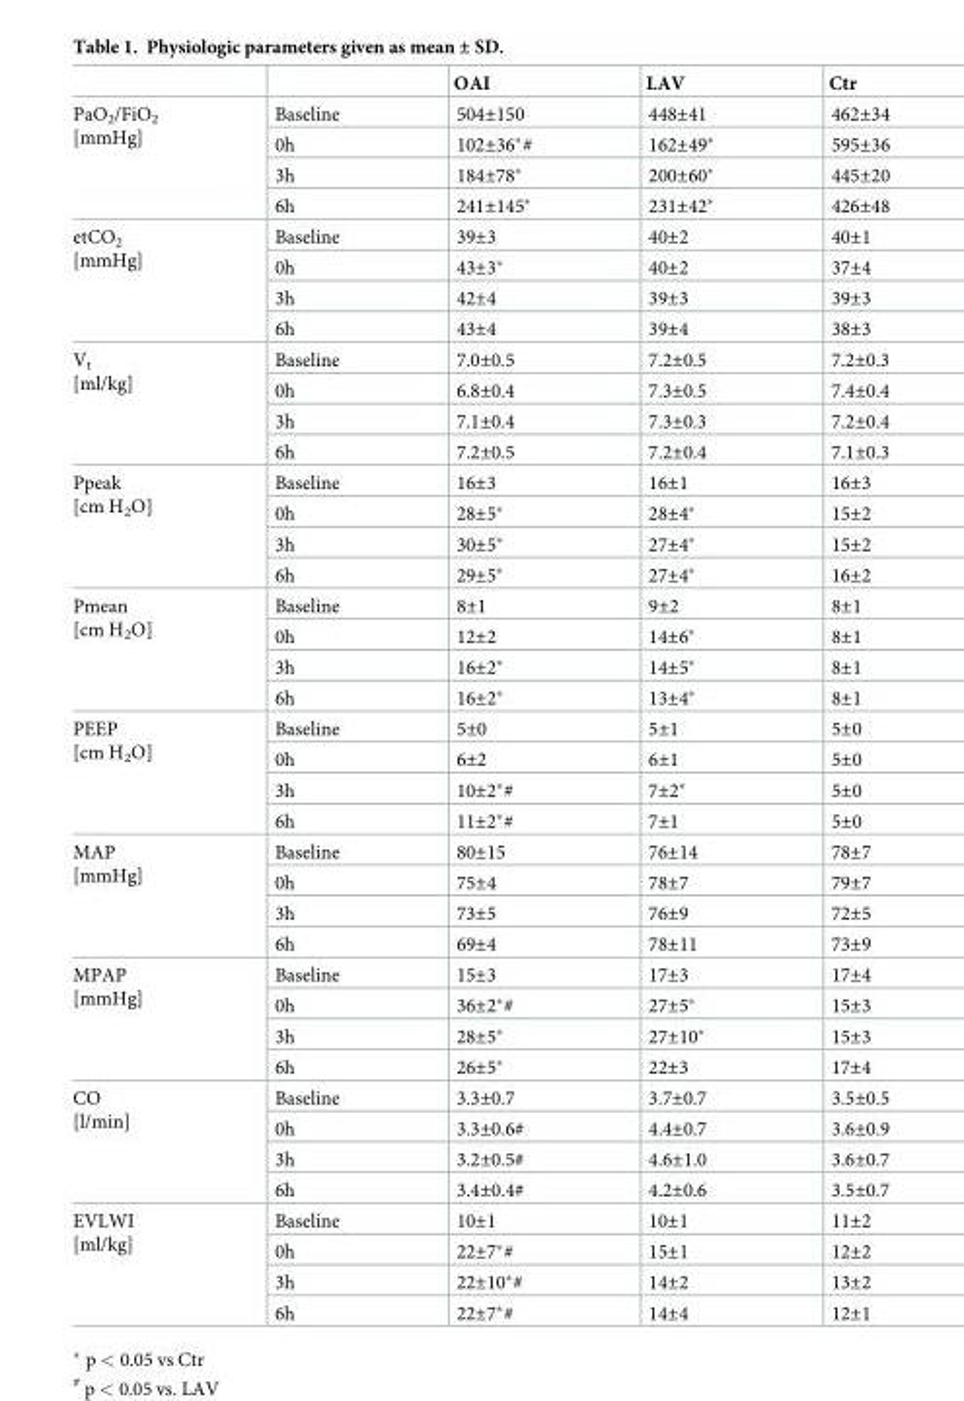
<table><thead><tr><td></td><td></td><td>OAI</td><td>LAV</td><td>Ctr</td></tr></thead><tbody><tr><td rowspan="4">PaO<sub>2</sub>/FiO<sub>2</sub> [mmHg]</td><td>Baseline</td><td>504±150</td><td>448±41</td><td>462±34</td></tr><tr><td>0h</td><td>102±36*#</td><td>162±49*</td><td>595±36</td></tr><tr><td>3h</td><td>184±78*</td><td>200±60*</td><td>445±20</td></tr><tr><td>6h</td><td>241±145*</td><td>231±42*</td><td>426±48</td></tr><tr><td rowspan="4">etCO<sub>2</sub> [mmHg]</td><td>Baseline</td><td>39±3</td><td>40±2</td><td>40±1</td></tr><tr><td>0h</td><td>43±3*</td><td>40±2</td><td>37±4</td></tr><tr><td>3h</td><td>42±4</td><td>39±3</td><td>39±3</td></tr><tr><td>6h</td><td>43±4</td><td>39±4</td><td>38±3</td></tr><tr><td rowspan="4">V<sub>t</sub> [ml/kg]</td><td>Baseline</td><td>7.0±0.5</td><td>7.2±0.5</td><td>7.2±0.3</td></tr><tr><td>0h</td><td>6.8±0.4</td><td>7.3±0.5</td><td>7.4±0.4</td></tr><tr><td>3h</td><td>7.1±0.4</td><td>7.3±0.3</td><td>7.2±0.4</td></tr><tr><td>6h</td><td>7.2±0.5</td><td>7.2±0.4</td><td>7.1±0.3</td></tr><tr><td rowspan="4">Ppeak [cm H<sub>2</sub>O]</td><td>Baseline</td><td>16±3</td><td>16±1</td><td>16±3</td></tr><tr><td>0h</td><td>28±5*</td><td>28±4*</td><td>15±2</td></tr><tr><td>3h</td><td>30±5*</td><td>27±4*</td><td>15±2</td></tr><tr><td>6h</td><td>29±5*</td><td>27±4*</td><td>16±2</td></tr><tr><td rowspan="4">Pmean [cm H<sub>2</sub>O]</td><td>Baseline</td><td>8±1</td><td>9±2</td><td>8±1</td></tr><tr><td>0h</td><td>12±2</td><td>14±6*</td><td>8±1</td></tr><tr><td>3h</td><td>16±2*</td><td>14±5*</td><td>8±1</td></tr><tr><td>6h</td><td>16±2*</td><td>13±4*</td><td>8±1</td></tr><tr><td rowspan="4">PEEP [cm H<sub>2</sub>O]</td><td>Baseline</td><td>5±0</td><td>5±1</td><td>5±0</td></tr><tr><td>0h</td><td>6±2</td><td>6±1</td><td>5±0</td></tr><tr><td>3h</td><td>10±2*#</td><td>7±2*</td><td>5±0</td></tr><tr><td>6h</td><td>11±2*#</td><td>7±1</td><td>5±0</td></tr><tr><td rowspan="4">MAP [mmHg]</td><td>Baseline</td><td>80±15</td><td>76±14</td><td>78±7</td></tr><tr><td>0h</td><td>75±4</td><td>78±7</td><td>79±7</td></tr><tr><td>3h</td><td>73±5</td><td>76±9</td><td>72±5</td></tr><tr><td>6h</td><td>69±4</td><td>78±11</td><td>73±9</td></tr><tr><td rowspan="4">MPAP [mmHg]</td><td>Baseline</td><td>15±3</td><td>17±3</td><td>17±4</td></tr><tr><td>0h</td><td>36±2*#</td><td>27±5*</td><td>15±3</td></tr><tr><td>3h</td><td>28±5*</td><td>27±10*</td><td>15±3</td></tr><tr><td>6h</td><td>26±5*</td><td>22±3</td><td>17±4</td></tr><tr><td rowspan="4">CO [l/min]</td><td>Baseline</td><td>3.3±0.7</td><td>3.7±0.7</td><td>3.5±0.5</td></tr><tr><td>0h</td><td>3.3±0.6#</td><td>4.4±0.7</td><td>3.6±0.9</td></tr><tr><td>3h</td><td>3.2±0.5#</td><td>4.6±1.0</td><td>3.6±0.7</td></tr><tr><td>6h</td><td>3.4±0.4#</td><td>4.2±0.6</td><td>3.5±0.7</td></tr><tr><td rowspan="4">EVLWI [ml/kg]</td><td>Baseline</td><td>10±1</td><td>10±1</td><td>11±2</td></tr><tr><td>0h</td><td>22±7*#</td><td>15±1</td><td>12±2</td></tr><tr><td>3h</td><td>22±10*#</td><td>14±2</td><td>13±2</td></tr><tr><td>6h</td><td>22±7*#</td><td>14±4</td><td>12±1</td></tr></tbody></table>